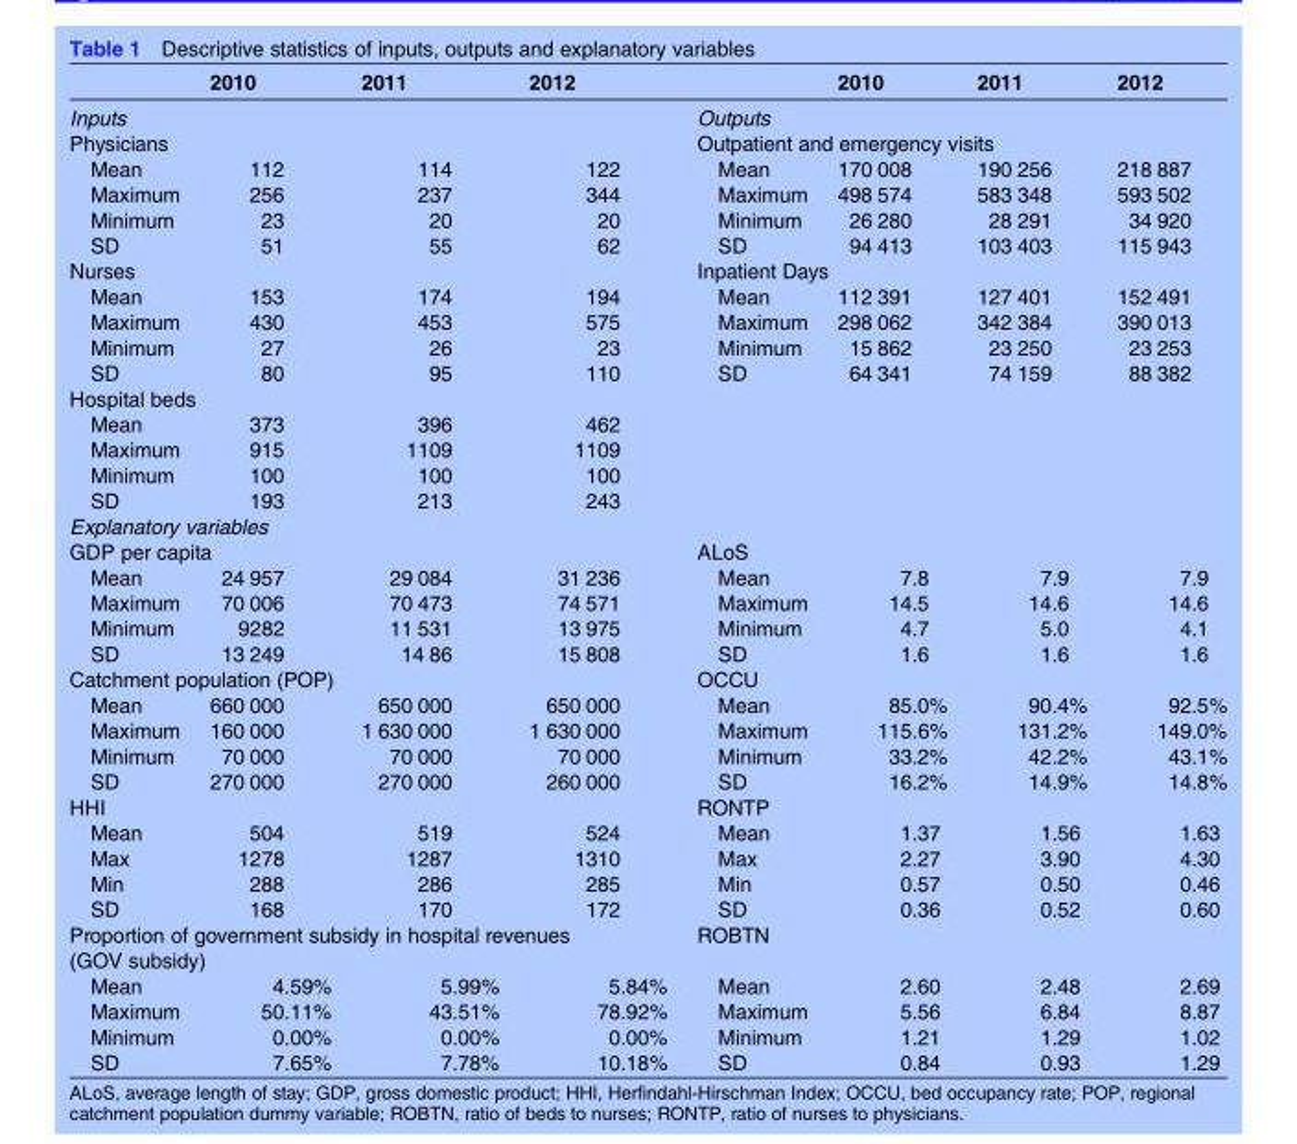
<table><thead><tr><td></td><td>2010</td><td>2011</td><td>2012</td><td></td><td>2010</td><td>2011</td><td>2012</td></tr></thead><tbody><tr><td colspan="4">Inputs</td><td colspan="4">Outputs</td></tr><tr><td colspan="4">Physicians</td><td colspan="4">Outpatient and emergency visits</td></tr><tr><td>Mean</td><td>112</td><td>114</td><td>122</td><td>Mean</td><td>170 008</td><td>190 256</td><td>218 887</td></tr><tr><td>Maximum</td><td>256</td><td>237</td><td>344</td><td>Maximum</td><td>498 574</td><td>583 348</td><td>593 502</td></tr><tr><td>Minimum</td><td>23</td><td>20</td><td>20</td><td>Minimum</td><td>26 280</td><td>28 291</td><td>34 920</td></tr><tr><td>SD</td><td>51</td><td>55</td><td>62</td><td>SD</td><td>94 413</td><td>103 403</td><td>115 943</td></tr><tr><td colspan="4">Nurses</td><td colspan="4">Inpatient Days</td></tr><tr><td>Mean</td><td>153</td><td>174</td><td>194</td><td>Mean</td><td>112 391</td><td>127 401</td><td>152 491</td></tr><tr><td>Maximum</td><td>430</td><td>453</td><td>575</td><td>Maximum</td><td>298 062</td><td>342 384</td><td>390 013</td></tr><tr><td>Minimum</td><td>27</td><td>26</td><td>23</td><td>Minimum</td><td>15 862</td><td>23 250</td><td>23 253</td></tr><tr><td>SD</td><td>80</td><td>95</td><td>110</td><td>SD</td><td>64 341</td><td>74 159</td><td>88 382</td></tr><tr><td colspan="8">Hospital beds</td></tr><tr><td>Mean</td><td>373</td><td>396</td><td>462</td><td colspan="4"></td></tr><tr><td>Maximum</td><td>915</td><td>1109</td><td>1109</td><td colspan="4"></td></tr><tr><td>Minimum</td><td>100</td><td>100</td><td>100</td><td colspan="4"></td></tr><tr><td>SD</td><td>193</td><td>213</td><td>243</td><td colspan="4"></td></tr><tr><td colspan="8">Explanatory variables</td></tr><tr><td colspan="4">GDP per capita</td><td colspan="4">ALoS</td></tr><tr><td>Mean</td><td>24 957</td><td>29 084</td><td>31 236</td><td>Mean</td><td>7.8</td><td>7.9</td><td>7.9</td></tr><tr><td>Maximum</td><td>70 006</td><td>70 473</td><td>74 571</td><td>Maximum</td><td>14.5</td><td>14.6</td><td>14.6</td></tr><tr><td>Minimum</td><td>9282</td><td>11 531</td><td>13 975</td><td>Minimum</td><td>4.7</td><td>5.0</td><td>4.1</td></tr><tr><td>SD</td><td>13 249</td><td>14 86</td><td>15 808</td><td>SD</td><td>1.6</td><td>1.6</td><td>1.6</td></tr><tr><td colspan="4">Catchment population (POP)</td><td colspan="4">OCCU</td></tr><tr><td>Mean</td><td>660 000</td><td>650 000</td><td>650 000</td><td>Mean</td><td>85.0%</td><td>90.4%</td><td>92.5%</td></tr><tr><td>Maximum</td><td>160 000</td><td>1 630 000</td><td>1 630 000</td><td>Maximum</td><td>115.6%</td><td>131.2%</td><td>149.0%</td></tr><tr><td>Minimum</td><td>70 000</td><td>70 000</td><td>70 000</td><td>Minimum</td><td>33.2%</td><td>42.2%</td><td>43.1%</td></tr><tr><td>SD</td><td>270 000</td><td>270 000</td><td>260 000</td><td>SD</td><td>16.2%</td><td>14.9%</td><td>14.8%</td></tr><tr><td colspan="4">HHI</td><td colspan="4">RONTP</td></tr><tr><td>Mean</td><td>504</td><td>519</td><td>524</td><td>Mean</td><td>1.37</td><td>1.56</td><td>1.63</td></tr><tr><td>Max</td><td>1278</td><td>1287</td><td>1310</td><td>Max</td><td>2.27</td><td>3.90</td><td>4.30</td></tr><tr><td>Min</td><td>288</td><td>286</td><td>285</td><td>Min</td><td>0.57</td><td>0.50</td><td>0.46</td></tr><tr><td>SD</td><td>168</td><td>170</td><td>172</td><td>SD</td><td>0.36</td><td>0.52</td><td>0.60</td></tr><tr><td colspan="4">Proportion of government subsidy in hospital revenues (GOV subsidy)</td><td colspan="4">ROBTN</td></tr><tr><td>Mean</td><td>4.59%</td><td>5.99%</td><td>5.84%</td><td>Mean</td><td>2.60</td><td>2.48</td><td>2.69</td></tr><tr><td>Maximum</td><td>50.11%</td><td>43.51%</td><td>78.92%</td><td>Maximum</td><td>5.56</td><td>6.84</td><td>8.87</td></tr><tr><td>Minimum</td><td>0.00%</td><td>0.00%</td><td>0.00%</td><td>Minimum</td><td>1.21</td><td>1.29</td><td>1.02</td></tr><tr><td>SD</td><td>7.65%</td><td>7.78%</td><td>10.18%</td><td>SD</td><td>0.84</td><td>0.93</td><td>1.29</td></tr></tbody></table>